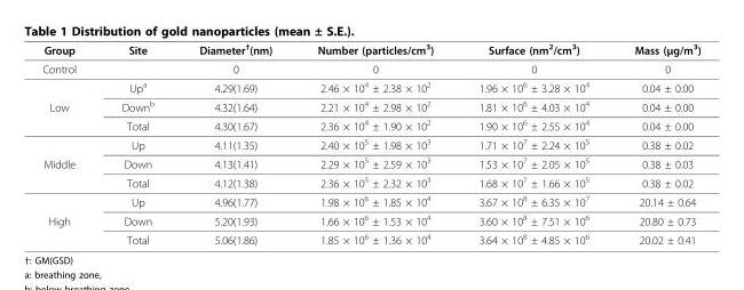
<table><thead><tr><td>Group</td><td>Site</td><td>Diameter<sup>†</sup>(nm)</td><td>Number (particles/cm<sup>3</sup>)</td><td>Surface (nm<sup>2</sup>/cm<sup>3</sup>)</td><td>Mass (μg/m<sup>3</sup>)</td></tr></thead><tbody><tr><td rowspan="2">Control</td><td></td><td>0</td><td>0</td><td>0</td><td>0</td></tr><tr><td>Up<sup>a</sup></td><td>4.29(1.69)</td><td>2.46 × 10<sup>4</sup> ± 2.38 × 10<sup>2</sup></td><td>1.96 × 10<sup>6</sup> ± 3.28 × 10<sup>4</sup></td><td>0.04 ± 0.00</td></tr><tr><td rowspan="3">Low</td><td>Down<sup>b</sup></td><td>4.32(1.64)</td><td>2.21 × 10<sup>4</sup> ± 2.98 × 10<sup>2</sup></td><td>1.81 × 10<sup>6</sup> ± 4.03 × 10<sup>4</sup></td><td>0.04 ± 0.00</td></tr><tr><td>Total</td><td>4.30(1.67)</td><td>2.36 × 10<sup>4</sup> ± 1.90 × 10<sup>2</sup></td><td>1.90 × 10<sup>6</sup> ± 2.55 × 10<sup>4</sup></td><td>0.04 ± 0.00</td></tr><tr><td>Up</td><td>4.11(1.35)</td><td>2.40 × 10<sup>5</sup> ± 1.98 × 10<sup>3</sup></td><td>1.71 × 10<sup>7</sup> ± 2.24 × 10<sup>5</sup></td><td>0.38 ± 0.02</td></tr><tr><td rowspan="3">Middle</td><td>Down</td><td>4.13(1.41)</td><td>2.29 × 10<sup>5</sup> ± 2.59 × 10<sup>3</sup></td><td>1.53 × 10<sup>7</sup> ± 2.05 × 10<sup>5</sup></td><td>0.38 ± 0.03</td></tr><tr><td>Total</td><td>4.12(1.38)</td><td>2.36 × 10<sup>5</sup> ± 2.32 × 10<sup>3</sup></td><td>1.68 × 10<sup>7</sup> ± 1.66 × 10<sup>5</sup></td><td>0.38 ± 0.02</td></tr><tr><td>Up</td><td>4.96(1.77)</td><td>1.98 × 10<sup>6</sup> ± 1.85 × 10<sup>4</sup></td><td>3.67 × 10<sup>8</sup> ± 6.35 × 10<sup>7</sup></td><td>20.14 ± 0.64</td></tr><tr><td rowspan="2">High</td><td>Down</td><td>5.20(1.93)</td><td>1.66 × 10<sup>6</sup> ± 1.53 × 10<sup>4</sup></td><td>3.60 × 10<sup>8</sup> ± 7.51 × 10<sup>6</sup></td><td>20.80 ± 0.73</td></tr><tr><td>Total</td><td>5.06(1.86)</td><td>1.85 × 10<sup>6</sup> ± 1.36 × 10<sup>4</sup></td><td>3.64 × 10<sup>8</sup> ± 4.85 × 10<sup>6</sup></td><td>20.02 ± 0.41</td></tr></tbody></table>